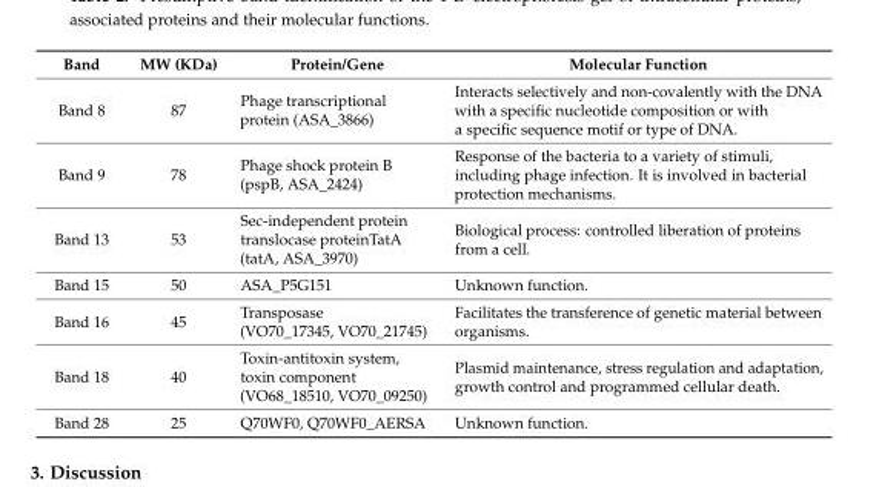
<table><thead><tr><td>Band</td><td>MW (KDa)</td><td>Protein/Gene</td><td>Molecular Function</td></tr></thead><tbody><tr><td>Band 8</td><td>87</td><td>Phage transcriptional protein (ASA_3866)</td><td>Interacts selectively and non-covalently with the DNA with a specific nucleotide composition or with a specific sequence motif or type of DNA.</td></tr><tr><td>Band 9</td><td>78</td><td>Phage shock protein B (pspB, ASA_2424)</td><td>Response of the bacteria to a variety of stimuli, including phage infection. It is involved in bacterial protection mechanisms.</td></tr><tr><td>Band 13</td><td>53</td><td>Sec-independent protein translocase proteinTatA (tatA, ASA_3970)</td><td>Biological process: controlled liberation of proteins from a cell.</td></tr><tr><td>Band 15</td><td>50</td><td>ASA_P5G151</td><td>Unknown function.</td></tr><tr><td>Band 16</td><td>45</td><td>Transposase (VO70_17345, VO70_21745)</td><td>Facilitates the transference of genetic material between organisms.</td></tr><tr><td>Band 18</td><td>40</td><td>Toxin-antitoxin system, toxin component (VO68_18510, VO70_09250)</td><td>Plasmid maintenance, stress regulation and adaptation, growth control and programmed cellular death.</td></tr><tr><td>Band 28</td><td>25</td><td>Q70WF0, Q70WF0_AERSA</td><td>Unknown function.</td></tr></tbody></table>